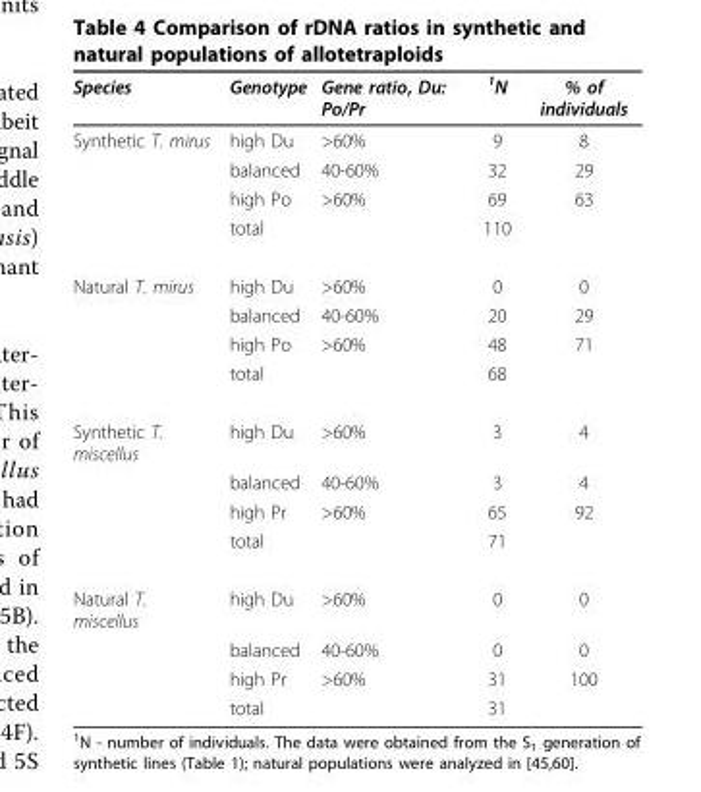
<table><thead><tr><td>Species</td><td>Genotype</td><td>Gene ratio, Du: Po/Pr</td><td><sup>1</sup>N</td><td>% of individuals</td></tr></thead><tbody><tr><td rowspan="4">Synthetic T. mirus</td><td>high Du</td><td>&gt;60%</td><td>9</td><td>8</td></tr><tr><td>balanced</td><td>40-60%</td><td>32</td><td>29</td></tr><tr><td>high Po</td><td>&gt;60%</td><td>69</td><td>63</td></tr><tr><td>total</td><td></td><td>110</td><td></td></tr><tr><td rowspan="4">Natural T. mirus</td><td>high Du</td><td>&gt;60%</td><td>0</td><td>0</td></tr><tr><td>balanced</td><td>40-60%</td><td>20</td><td>29</td></tr><tr><td>high Po</td><td>&gt;60%</td><td>48</td><td>71</td></tr><tr><td>total</td><td></td><td>68</td><td></td></tr><tr><td rowspan="4">Synthetic T. miscellus</td><td>high Du</td><td>&gt;60%</td><td>3</td><td>4</td></tr><tr><td>balanced</td><td>40-60%</td><td>3</td><td>4</td></tr><tr><td>high Pr</td><td>&gt;60%</td><td>65</td><td>92</td></tr><tr><td>total</td><td></td><td>71</td><td></td></tr><tr><td rowspan="4">Natural T. miscellus</td><td>high Du</td><td>&gt;60%</td><td>0</td><td>0</td></tr><tr><td>balanced</td><td>40-60%</td><td>0</td><td>0</td></tr><tr><td>high Pr</td><td>&gt;60%</td><td>31</td><td>100</td></tr><tr><td>total</td><td></td><td>31</td><td></td></tr></tbody></table>